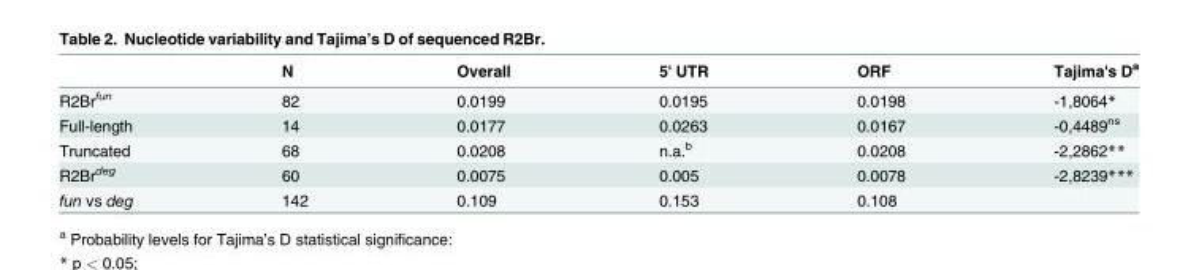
<table><thead><tr><td></td><td>N</td><td>Overall</td><td>5&#x27; UTR</td><td>ORF</td><td>Tajima&#x27;s D<sup>a</sup></td></tr></thead><tbody><tr><td>R2Br<sup>fun</sup></td><td>82</td><td>0.0199</td><td>0.0195</td><td>0.0198</td><td>-1,8064*</td></tr><tr><td>Full-length</td><td>14</td><td>0.0177</td><td>0.0263</td><td>0.0167</td><td>-0,4489<sup>ns</sup></td></tr><tr><td>Truncated</td><td>68</td><td>0.0208</td><td>n.a.<sup>b</sup></td><td>0.0208</td><td>-2,2862**</td></tr><tr><td>R2Br<sup>deg</sup></td><td>60</td><td>0.0075</td><td>0.005</td><td>0.0078</td><td>-2,8239***</td></tr><tr><td>fun vs deg</td><td>142</td><td>0.109</td><td>0.153</td><td>0.108</td><td></td></tr></tbody></table>